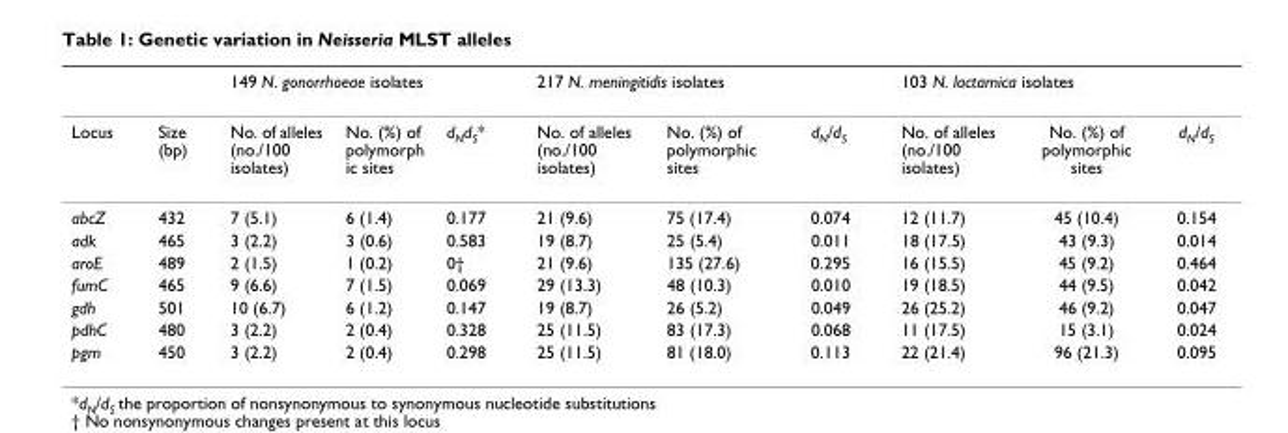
<table><thead><tr><td rowspan="2">Locus</td><td rowspan="2">Size (bp)</td><td colspan="3">149 N. gonorrhoeae isolates</td><td colspan="3">217 N. meningitidis isolates</td><td colspan="3">103 N. lactamica isolates</td></tr><tr><td>No. of alleles (no./100 isolates)</td><td>No. (%) of polymorph ic sites</td><td>d<sub>N</sub>d<sub>S</sub>*</td><td>No. of alleles (no./100 isolates)</td><td>No. (%) of polymorphic sites</td><td>d<sub>N</sub>/d<sub>S</sub></td><td>No. of alleles (no./100 isolates)</td><td>No. (%) of polymorphic sites</td><td>d<sub>N</sub>/d<sub>S</sub></td></tr></thead><tbody><tr><td>abcZ</td><td>432</td><td>7 (5.1)</td><td>6 (1.4)</td><td>0.177</td><td>21 (9.6)</td><td>75 (17.4)</td><td>0.074</td><td>12 (11.7)</td><td>45 (10.4)</td><td>0.154</td></tr><tr><td>adk</td><td>465</td><td>3 (2.2)</td><td>3 (0.6)</td><td>0.583</td><td>19 (8.7)</td><td>25 (5.4)</td><td>0.011</td><td>18 (17.5)</td><td>43 (9.3)</td><td>0.014</td></tr><tr><td>aroE</td><td>489</td><td>2 (1.5)</td><td>1 (0.2)</td><td>0†</td><td>21 (9.6)</td><td>135 (27.6)</td><td>0.295</td><td>16 (15.5)</td><td>45 (9.2)</td><td>0.464</td></tr><tr><td>fumC</td><td>465</td><td>9 (6.6)</td><td>7 (1.5)</td><td>0.069</td><td>29 (13.3)</td><td>48 (10.3)</td><td>0.010</td><td>19 (18.5)</td><td>44 (9.5)</td><td>0.042</td></tr><tr><td>gdh</td><td>501</td><td>10 (6.7)</td><td>6 (1.2)</td><td>0.147</td><td>19 (8.7)</td><td>26 (5.2)</td><td>0.049</td><td>26 (25.2)</td><td>46 (9.2)</td><td>0.047</td></tr><tr><td>pdhC</td><td>480</td><td>3 (2.2)</td><td>2 (0.4)</td><td>0.328</td><td>25 (11.5)</td><td>83 (17.3)</td><td>0.068</td><td>11 (17.5)</td><td>15 (3.1)</td><td>0.024</td></tr><tr><td>pgm</td><td>450</td><td>3 (2.2)</td><td>2 (0.4)</td><td>0.298</td><td>25 (11.5)</td><td>81 (18.0)</td><td>0.113</td><td>22 (21.4)</td><td>96 (21.3)</td><td>0.095</td></tr></tbody></table>